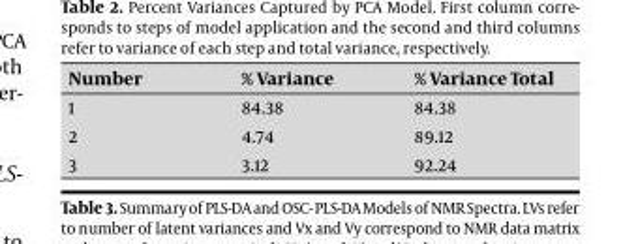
<table><thead><tr><td>Number</td><td>% Variance</td><td>% Variance Total</td></tr></thead><tbody><tr><td>1</td><td>84.38</td><td>84.38</td></tr><tr><td>2</td><td>4.74</td><td>89.12</td></tr><tr><td>3</td><td>3.12</td><td>92.24</td></tr></tbody></table>